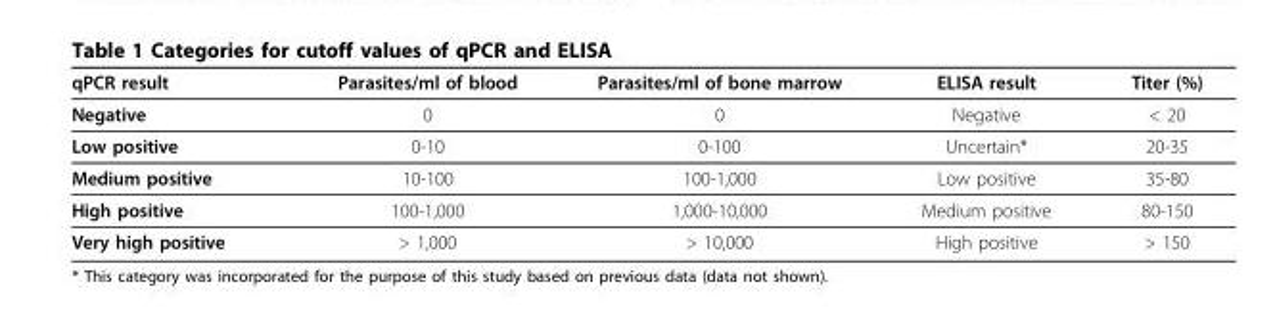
<table><thead><tr><td>qPCR result</td><td>Parasites/ml of blood</td><td>Parasites/ml of bone marrow</td><td>ELISA result</td><td>Titer (%)</td></tr></thead><tbody><tr><td>Negative</td><td>0</td><td>0</td><td>Negative</td><td>&lt; 20</td></tr><tr><td>Low positive</td><td>0-10</td><td>0-100</td><td>Uncertain*</td><td>20-35</td></tr><tr><td>Medium positive</td><td>10-100</td><td>100-1,000</td><td>Low positive</td><td>35-80</td></tr><tr><td>High positive</td><td>100-1,000</td><td>1,000-10,000</td><td>Medium positive</td><td>80-150</td></tr><tr><td>Very high positive</td><td>&gt; 1,000</td><td>&gt; 10,000</td><td>High positive</td><td>&gt; 150</td></tr></tbody></table>